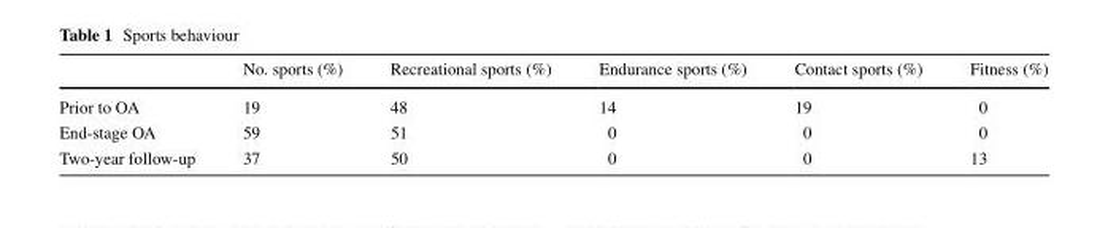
<table><thead><tr><td></td><td>No. sports (%)</td><td>Recreational sports (%)</td><td>Endurance sports (%)</td><td>Contact sports (%)</td><td>Fitness (%)</td></tr></thead><tbody><tr><td>Prior to OA</td><td>19</td><td>48</td><td>14</td><td>19</td><td>0</td></tr><tr><td>End-stage OA</td><td>59</td><td>51</td><td>0</td><td>0</td><td>0</td></tr><tr><td>Two-year follow-up</td><td>37</td><td>50</td><td>0</td><td>0</td><td>13</td></tr></tbody></table>